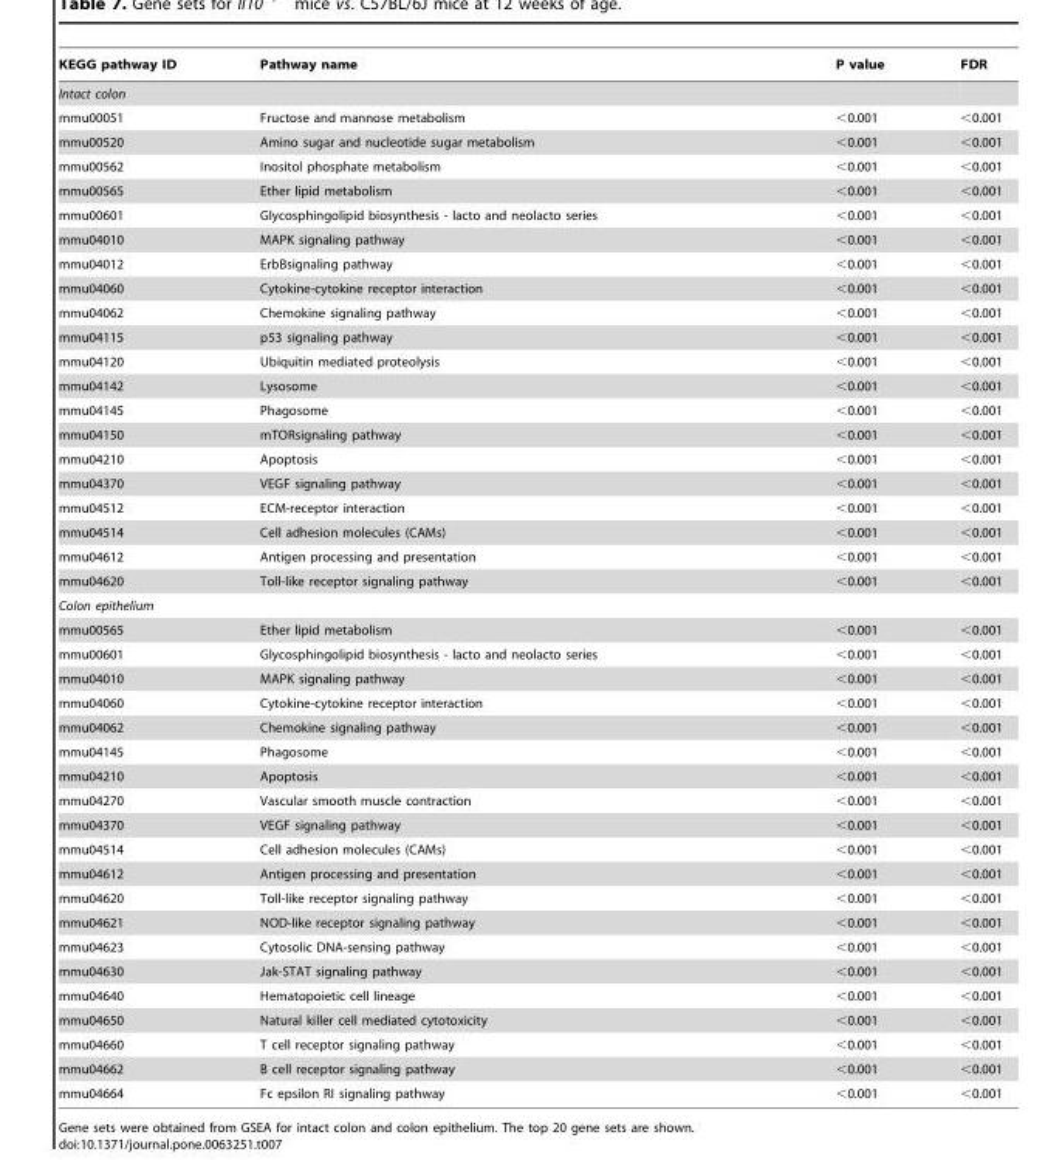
<table><thead><tr><td>KEGG pathway ID</td><td>Pathway name</td><td>P value</td><td>FDR</td></tr></thead><tbody><tr><td colspan="4">Intact colon</td></tr><tr><td>mmu00051</td><td>Fructose and mannose metabolism</td><td>&lt;0.001</td><td>&lt;0.001</td></tr><tr><td>mmu00520</td><td>Amino sugar and nucleotide sugar metabolism</td><td>&lt;0.001</td><td>&lt;0.001</td></tr><tr><td>mmu00562</td><td>Inositol phosphate metabolism</td><td>&lt;0.001</td><td>&lt;0.001</td></tr><tr><td>mmu00565</td><td>Ether lipid metabolism</td><td>&lt;0.001</td><td>&lt;0.001</td></tr><tr><td>mmu00601</td><td>Glycosphingolipid biosynthesis - lacto and neolacto series</td><td>&lt;0.001</td><td>&lt;0.001</td></tr><tr><td>mmu04010</td><td>MAPK signaling pathway</td><td>&lt;0.001</td><td>&lt;0.001</td></tr><tr><td>mmu04012</td><td>ErbBsignaling pathway</td><td>&lt;0.001</td><td>&lt;0.001</td></tr><tr><td>mmu04060</td><td>Cytokine-cytokine receptor interaction</td><td>&lt;0.001</td><td>&lt;0.001</td></tr><tr><td>mmu04062</td><td>Chemokine signaling pathway</td><td>&lt;0.001</td><td>&lt;0.001</td></tr><tr><td>mmu04115</td><td>p53 signaling pathway</td><td>&lt;0.001</td><td>&lt;0.001</td></tr><tr><td>mmu04120</td><td>Ubiquitin mediated proteolysis</td><td>&lt;0.001</td><td>&lt;0.001</td></tr><tr><td>mmu04142</td><td>Lysosome</td><td>&lt;0.001</td><td>&lt;0.001</td></tr><tr><td>mmu04145</td><td>Phagosome</td><td>&lt;0.001</td><td>&lt;0.001</td></tr><tr><td>mmu04150</td><td>mTORsignaling pathway</td><td>&lt;0.001</td><td>&lt;0.001</td></tr><tr><td>mmu04210</td><td>Apoptosis</td><td>&lt;0.001</td><td>&lt;0.001</td></tr><tr><td>mmu04370</td><td>VEGF signaling pathway</td><td>&lt;0.001</td><td>&lt;0.001</td></tr><tr><td>mmu04512</td><td>ECM-receptor interaction</td><td>&lt;0.001</td><td>&lt;0.001</td></tr><tr><td>mmu04514</td><td>Cell adhesion molecules (CAMs)</td><td>&lt;0.001</td><td>&lt;0.001</td></tr><tr><td>mmu04612</td><td>Antigen processing and presentation</td><td>&lt;0.001</td><td>&lt;0.001</td></tr><tr><td>mmu04620</td><td>Toll-like receptor signaling pathway</td><td>&lt;0.001</td><td>&lt;0.001</td></tr><tr><td colspan="4">Colon epithelium</td></tr><tr><td>mmu00565</td><td>Ether lipid metabolism</td><td>&lt;0.001</td><td>&lt;0.001</td></tr><tr><td>mmu00601</td><td>Glycosphingolipid biosynthesis - lacto and neolacto series</td><td>&lt;0.001</td><td>&lt;0.001</td></tr><tr><td>mmu04010</td><td>MAPK signaling pathway</td><td>&lt;0.001</td><td>&lt;0.001</td></tr><tr><td>mmu04060</td><td>Cytokine-cytokine receptor interaction</td><td>&lt;0.001</td><td>&lt;0.001</td></tr><tr><td>mmu04062</td><td>Chemokine signaling pathway</td><td>&lt;0.001</td><td>&lt;0.001</td></tr><tr><td>mmu04145</td><td>Phagosome</td><td>&lt;0.001</td><td>&lt;0.001</td></tr><tr><td>mmu04210</td><td>Apoptosis</td><td>&lt;0.001</td><td>&lt;0.001</td></tr><tr><td>mmu04270</td><td>Vascular smooth muscle contraction</td><td>&lt;0.001</td><td>&lt;0.001</td></tr><tr><td>mmu04370</td><td>VEGF signaling pathway</td><td>&lt;0.001</td><td>&lt;0.001</td></tr><tr><td>mmu04514</td><td>Cell adhesion molecules (CAMs)</td><td>&lt;0.001</td><td>&lt;0.001</td></tr><tr><td>mmu04612</td><td>Antigen processing and presentation</td><td>&lt;0.001</td><td>&lt;0.001</td></tr><tr><td>mmu04620</td><td>Toll-like receptor signaling pathway</td><td>&lt;0.001</td><td>&lt;0.001</td></tr><tr><td>mmu04621</td><td>NOD-like receptor signaling pathway</td><td>&lt;0.001</td><td>&lt;0.001</td></tr><tr><td>mmu04623</td><td>Cytosolic DNA-sensing pathway</td><td>&lt;0.001</td><td>&lt;0.001</td></tr><tr><td>mmu04630</td><td>Jak-STAT signaling pathway</td><td>&lt;0.001</td><td>&lt;0.001</td></tr><tr><td>mmu04640</td><td>Hematopoietic cell lineage</td><td>&lt;0.001</td><td>&lt;0.001</td></tr><tr><td>mmu04650</td><td>Natural killer cell mediated cytotoxicity</td><td>&lt;0.001</td><td>&lt;0.001</td></tr><tr><td>mmu04660</td><td>T cell receptor signaling pathway</td><td>&lt;0.001</td><td>&lt;0.001</td></tr><tr><td>mmu04662</td><td>B cell receptor signaling pathway</td><td>&lt;0.001</td><td>&lt;0.001</td></tr><tr><td>mmu04664</td><td>Fc epsilon RI signaling pathway</td><td>&lt;0.001</td><td>&lt;0.001</td></tr></tbody></table>